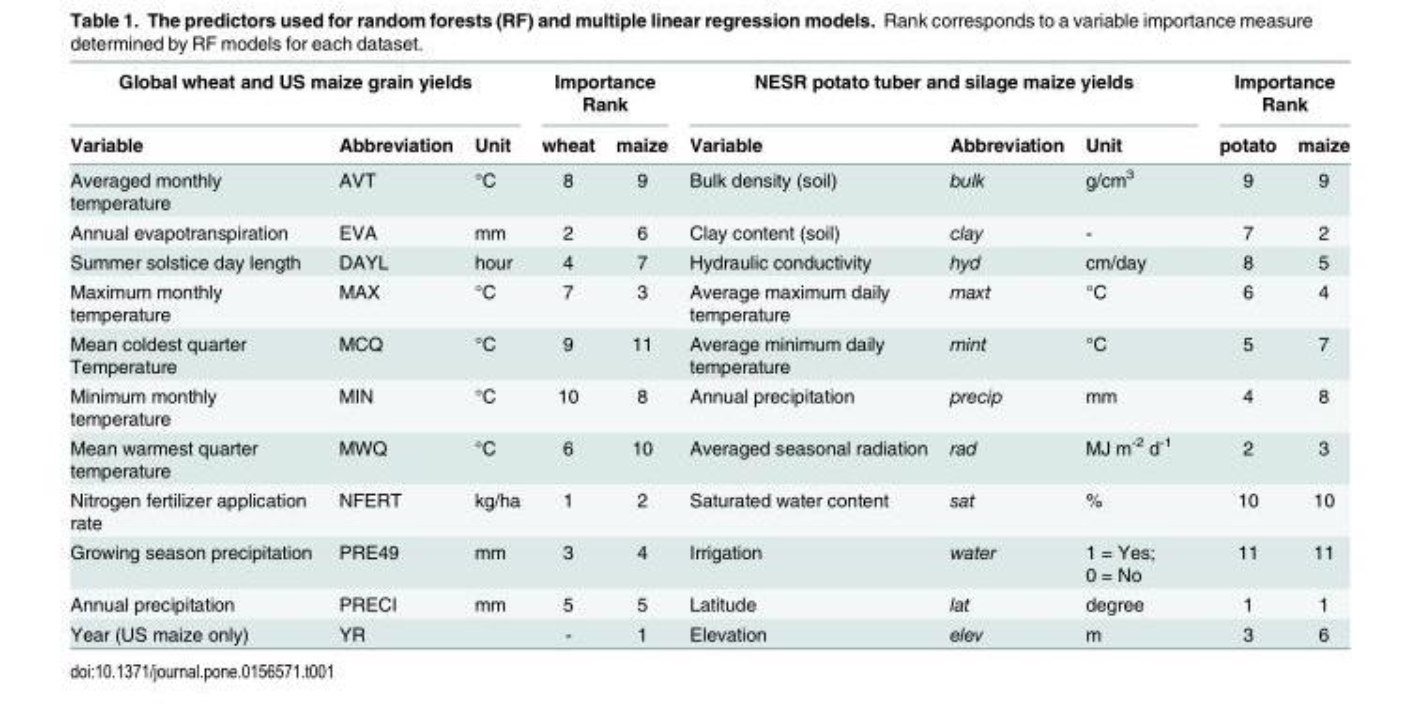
<table><thead><tr><td colspan="3">Global wheat and US maize grain yields</td><td colspan="2">Importance Rank</td><td colspan="3">NESR potato tuber and silage maize yields</td><td colspan="2">Importance Rank</td></tr><tr><td>Variable</td><td>Abbreviation</td><td>Unit</td><td>wheat</td><td>maize</td><td>Variable</td><td>Abbreviation</td><td>Unit</td><td>potato</td><td>maize</td></tr></thead><tbody><tr><td>Averaged monthly temperature</td><td>AVT</td><td>°C</td><td>8</td><td>9</td><td>Bulk density (soil)</td><td>bulk</td><td>g/cm<sup>3</sup></td><td>9</td><td>9</td></tr><tr><td>Annual evapotranspiration</td><td>EVA</td><td>mm</td><td>2</td><td>6</td><td>Clay content (soil)</td><td>clay</td><td>-</td><td>7</td><td>2</td></tr><tr><td>Summer solstice day length</td><td>DAYL</td><td>hour</td><td>4</td><td>7</td><td>Hydraulic conductivity</td><td>hyd</td><td>cm/day</td><td>8</td><td>5</td></tr><tr><td>Maximum monthly temperature</td><td>MAX</td><td>°C</td><td>7</td><td>3</td><td>Average maximum daily temperature</td><td>maxt</td><td>°C</td><td>6</td><td>4</td></tr><tr><td>Mean coldest quarter Temperature</td><td>MCQ</td><td>°C</td><td>9</td><td>11</td><td>Average minimum daily temperature</td><td>mint</td><td>°C</td><td>5</td><td>7</td></tr><tr><td>Minimum monthly temperature</td><td>MIN</td><td>°C</td><td>10</td><td>8</td><td>Annual precipitation</td><td>precip</td><td>mm</td><td>4</td><td>8</td></tr><tr><td>Mean warmest quarter temperature</td><td>MWQ</td><td>°C</td><td>6</td><td>10</td><td>Averaged seasonal radiation</td><td>rad</td><td>MJ m<sup>-2</sup> d<sup>-1</sup></td><td>2</td><td>3</td></tr><tr><td>Nitrogen fertilizer application rate</td><td>NFERT</td><td>kg/ha</td><td>1</td><td>2</td><td>Saturated water content</td><td>sat</td><td>%</td><td>10</td><td>10</td></tr><tr><td>Growing season precipitation</td><td>PRE49</td><td>mm</td><td>3</td><td>4</td><td>Irrigation</td><td>water</td><td>1 = Yes; 0 = No</td><td>11</td><td>11</td></tr><tr><td>Annual precipitation</td><td>PRECI</td><td>mm</td><td>5</td><td>5</td><td>Latitude</td><td>lat</td><td>degree</td><td>1</td><td>1</td></tr><tr><td>Year (US maize only)</td><td>YR</td><td></td><td>-</td><td>1</td><td>Elevation</td><td>elev</td><td>m</td><td>3</td><td>6</td></tr></tbody></table>